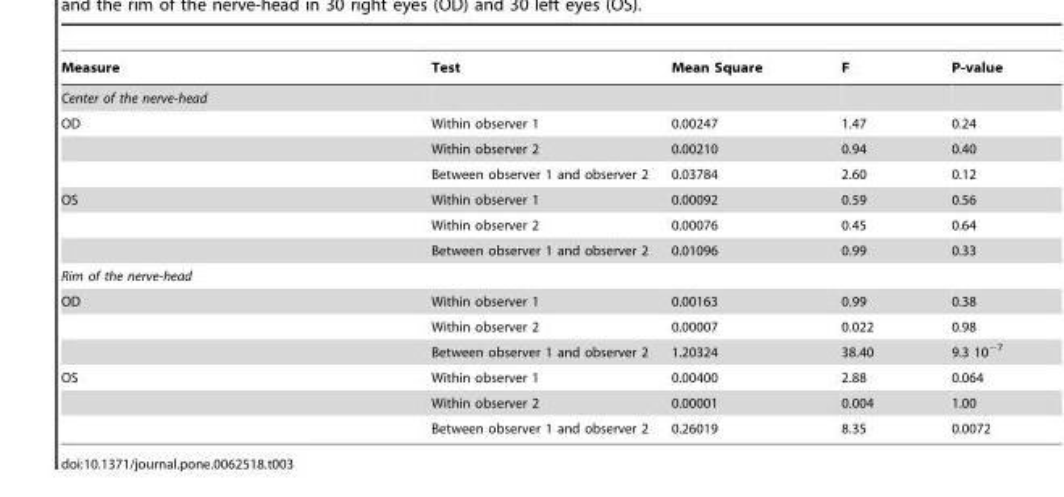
<table><thead><tr><td>Measure</td><td>Test</td><td>Mean Square</td><td>F</td><td>P-value</td></tr></thead><tbody><tr><td colspan="5">Center of the nerve-head</td></tr><tr><td rowspan="3">OD</td><td>Within observer 1</td><td>0.00247</td><td>1.47</td><td>0.24</td></tr><tr><td>Within observer 2</td><td>0.00210</td><td>0.94</td><td>0.40</td></tr><tr><td>Between observer 1 and observer 2</td><td>0.03784</td><td>2.60</td><td>0.12</td></tr><tr><td rowspan="3">OS</td><td>Within observer 1</td><td>0.00092</td><td>0.59</td><td>0.56</td></tr><tr><td>Within observer 2</td><td>0.00076</td><td>0.45</td><td>0.64</td></tr><tr><td>Between observer 1 and observer 2</td><td>0.01096</td><td>0.99</td><td>0.33</td></tr><tr><td colspan="5">Rim of the nerve-head</td></tr><tr><td rowspan="3">OD</td><td>Within observer 1</td><td>0.00163</td><td>0.99</td><td>0.38</td></tr><tr><td>Within observer 2</td><td>0.00007</td><td>0.022</td><td>0.98</td></tr><tr><td>Between observer 1 and observer 2</td><td>1.20324</td><td>38.40</td><td>9.3 10<sup>−7</sup></td></tr><tr><td rowspan="3">OS</td><td>Within observer 1</td><td>0.00400</td><td>2.88</td><td>0.064</td></tr><tr><td>Within observer 2</td><td>0.00001</td><td>0.004</td><td>1.00</td></tr><tr><td>Between observer 1 and observer 2</td><td>0.26019</td><td>8.35</td><td>0.0072</td></tr></tbody></table>